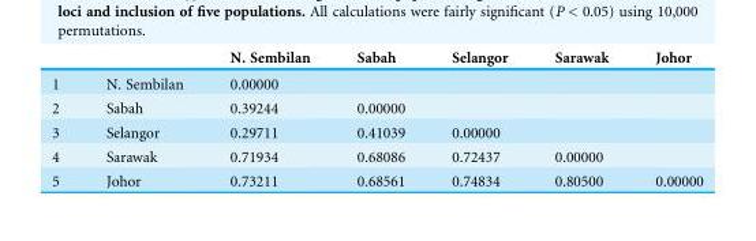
<table><thead><tr><td></td><td></td><td>N. Sembilan</td><td>Sabah</td><td>Selangor</td><td>Sarawak</td><td>Johor</td></tr></thead><tbody><tr><td>1</td><td>N. Sembilan</td><td>0.00000</td><td></td><td></td><td></td><td></td></tr><tr><td>2</td><td>Sabah</td><td>0.39244</td><td>0.00000</td><td></td><td></td><td></td></tr><tr><td>3</td><td>Selangor</td><td>0.29711</td><td>0.41039</td><td>0.00000</td><td></td><td></td></tr><tr><td>4</td><td>Sarawak</td><td>0.71934</td><td>0.68086</td><td>0.72437</td><td>0.00000</td><td></td></tr><tr><td>5</td><td>Johor</td><td>0.73211</td><td>0.68561</td><td>0.74834</td><td>0.80500</td><td>0.00000</td></tr></tbody></table>